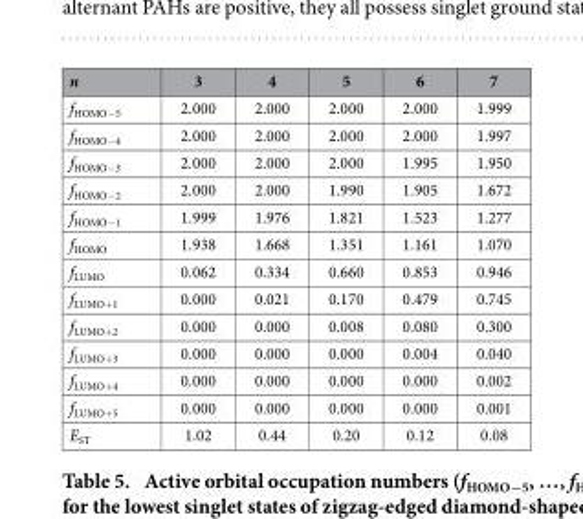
<table><thead><tr><td>n</td><td>3</td><td>4</td><td>5</td><td>6</td><td>7</td></tr></thead><tbody><tr><td>f<sub>HOMO−5</sub></td><td>2.000</td><td>2.000</td><td>2.000</td><td>2.000</td><td>1.999</td></tr><tr><td>f<sub>HOMO−4</sub></td><td>2.000</td><td>2.000</td><td>2.000</td><td>2.000</td><td>1.997</td></tr><tr><td>f<sub>HOMO−3</sub></td><td>2.000</td><td>2.000</td><td>2.000</td><td>1.995</td><td>1.950</td></tr><tr><td>f<sub>HOMO−2</sub></td><td>2.000</td><td>2.000</td><td>1.990</td><td>1.905</td><td>1.672</td></tr><tr><td>f<sub>HOMO−1</sub></td><td>1.999</td><td>1.976</td><td>1.821</td><td>1.523</td><td>1.277</td></tr><tr><td>f<sub>HOMO</sub></td><td>1.938</td><td>1.668</td><td>1.351</td><td>1.161</td><td>1.070</td></tr><tr><td>f<sub>LUMO</sub></td><td>0.062</td><td>0.334</td><td>0.660</td><td>0.853</td><td>0.946</td></tr><tr><td>f<sub>LUMO+1</sub></td><td>0.000</td><td>0.021</td><td>0.170</td><td>0.479</td><td>0.745</td></tr><tr><td>f<sub>LUMO+2</sub></td><td>0.000</td><td>0.000</td><td>0.008</td><td>0.080</td><td>0.300</td></tr><tr><td>f<sub>LUMO+3</sub></td><td>0.000</td><td>0.000</td><td>0.000</td><td>0.004</td><td>0.040</td></tr><tr><td>f<sub>LUMO+4</sub></td><td>0.000</td><td>0.000</td><td>0.000</td><td>0.000</td><td>0.002</td></tr><tr><td>f<sub>LUMO+5</sub></td><td>0.000</td><td>0.000</td><td>0.000</td><td>0.000</td><td>0.001</td></tr><tr><td>E<sub>ST</sub></td><td>1.02</td><td>0.44</td><td>0.20</td><td>0.12</td><td>0.08</td></tr></tbody></table>